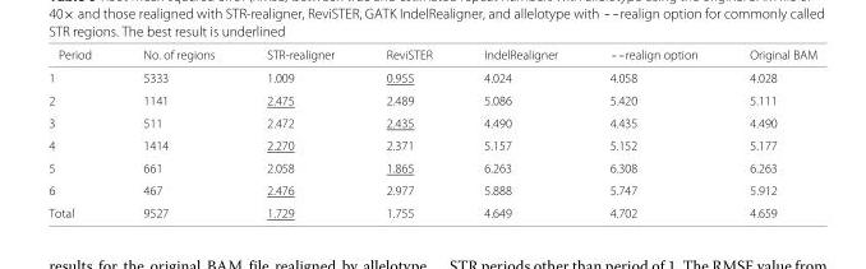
<table><thead><tr><td>Period</td><td>No. of regions</td><td>STR-realigner</td><td>ReviSTER</td><td>IndelRealigner</td><td>--realign option</td><td>Original BAM</td></tr></thead><tbody><tr><td>1</td><td>5333</td><td>1.009</td><td>0.955</td><td>4.024</td><td>4.058</td><td>4.028</td></tr><tr><td>2</td><td>1141</td><td>2.475</td><td>2.489</td><td>5.086</td><td>5.420</td><td>5.111</td></tr><tr><td>3</td><td>511</td><td>2.472</td><td>2.435</td><td>4.490</td><td>4.435</td><td>4.490</td></tr><tr><td>4</td><td>1414</td><td>2.270</td><td>2.371</td><td>5.157</td><td>5.152</td><td>5.177</td></tr><tr><td>5</td><td>661</td><td>2.058</td><td>1.865</td><td>6.263</td><td>6.308</td><td>6.263</td></tr><tr><td>6</td><td>467</td><td>2.476</td><td>2.977</td><td>5.888</td><td>5.747</td><td>5.912</td></tr><tr><td>Total</td><td>9527</td><td>1.729</td><td>1.755</td><td>4.649</td><td>4.702</td><td>4.659</td></tr></tbody></table>